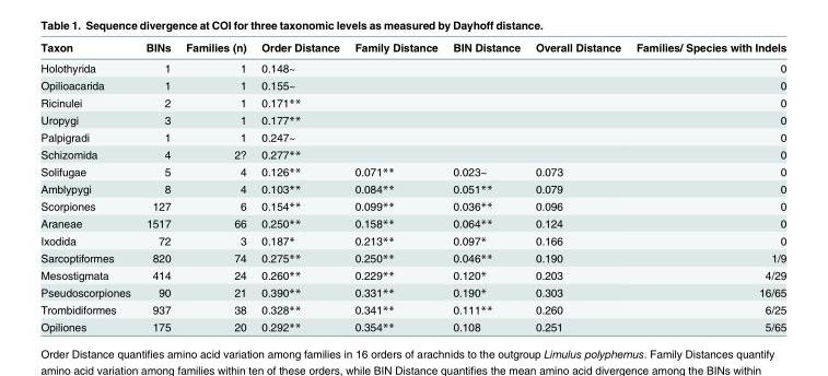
<table><thead><tr><td>Taxon</td><td>BINs</td><td>Families (n)</td><td>Order Distance</td><td>Family Distance</td><td>BIN Distance</td><td>Overall Distance</td><td>Families/ Species with Indels</td></tr></thead><tbody><tr><td>Holothyrida</td><td>1</td><td>1</td><td>0.148~</td><td></td><td></td><td></td><td>0</td></tr><tr><td>Opilioacarida</td><td>1</td><td>1</td><td>0.155~</td><td></td><td></td><td></td><td>0</td></tr><tr><td>Ricinulei</td><td>2</td><td>1</td><td>0.171**</td><td></td><td></td><td></td><td>0</td></tr><tr><td>Uropygi</td><td>3</td><td>1</td><td>0.177**</td><td></td><td></td><td></td><td>0</td></tr><tr><td>Palpigradi</td><td>1</td><td>1</td><td>0.247~</td><td></td><td></td><td></td><td>0</td></tr><tr><td>Schizomida</td><td>4</td><td>2?</td><td>0.277**</td><td></td><td></td><td></td><td>0</td></tr><tr><td>Solifugae</td><td>5</td><td>4</td><td>0.126**</td><td>0.071**</td><td>0.023~</td><td>0.073</td><td>0</td></tr><tr><td>Amblypygi</td><td>8</td><td>4</td><td>0.103**</td><td>0.084**</td><td>0.051**</td><td>0.079</td><td>0</td></tr><tr><td>Scorpiones</td><td>127</td><td>6</td><td>0.154**</td><td>0.099**</td><td>0.036**</td><td>0.096</td><td>0</td></tr><tr><td>Araneae</td><td>1517</td><td>66</td><td>0.250**</td><td>0.158**</td><td>0.064**</td><td>0.124</td><td>0</td></tr><tr><td>Ixodida</td><td>72</td><td>3</td><td>0.187*</td><td>0.213**</td><td>0.097*</td><td>0.166</td><td>0</td></tr><tr><td>Sarcoptiformes</td><td>820</td><td>74</td><td>0.275**</td><td>0.250**</td><td>0.046**</td><td>0.190</td><td>1/9</td></tr><tr><td>Mesostigmata</td><td>414</td><td>24</td><td>0.260**</td><td>0.229**</td><td>0.120*</td><td>0.203</td><td>4/29</td></tr><tr><td>Pseudoscorpiones</td><td>90</td><td>21</td><td>0.390**</td><td>0.331**</td><td>0.190*</td><td>0.303</td><td>16/65</td></tr><tr><td>Trombidiformes</td><td>937</td><td>38</td><td>0.328**</td><td>0.341**</td><td>0.111**</td><td>0.260</td><td>6/25</td></tr><tr><td>Opiliones</td><td>175</td><td>20</td><td>0.292**</td><td>0.354**</td><td>0.108</td><td>0.251</td><td>5/65</td></tr></tbody></table>